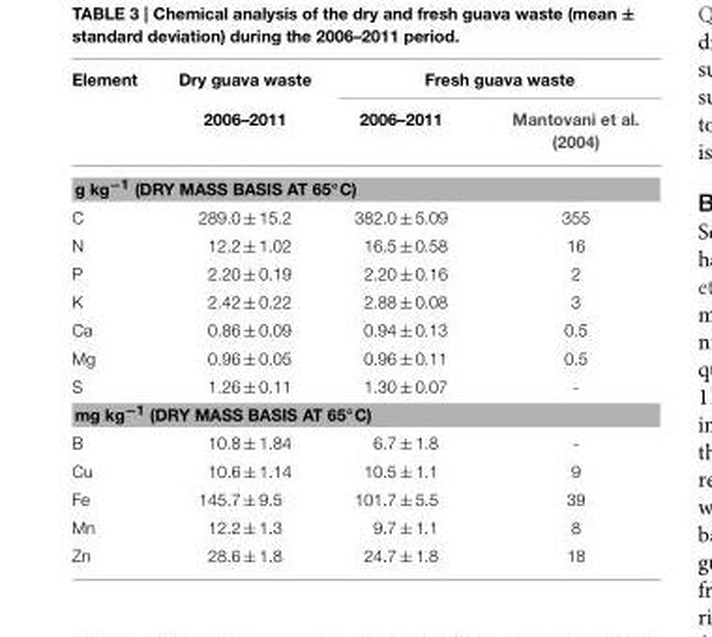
<table><thead><tr><td rowspan="2">Element</td><td rowspan="2">Dry guava waste 2006–2011</td><td colspan="2">Fresh guava waste</td></tr><tr><td>2006–2011</td><td>Mantovani et al. (2004)</td></tr></thead><tbody><tr><td colspan="4">g kg−1 (DRY MASS BASIS AT 65◦C)</td></tr><tr><td>C</td><td>289.0 ± 15.2</td><td>382.0 ± 5.09</td><td>355</td></tr><tr><td>N</td><td>12.2 ± 1.02</td><td>16.5 ± 0.58</td><td>16</td></tr><tr><td>P</td><td>2.20 ± 0.19</td><td>2.20 ± 0.16</td><td>2</td></tr><tr><td>K</td><td>2.42 ± 0.22</td><td>2.88 ± 0.08</td><td>3</td></tr><tr><td>Ca</td><td>0.86 ± 0.09</td><td>0.94 ± 0.13</td><td>0.5</td></tr><tr><td>Mg</td><td>0.96 ± 0.05</td><td>0.96 ± 0.11</td><td>0.5</td></tr><tr><td>S</td><td>1.26 ± 0.11</td><td>1.30 ± 0.07</td><td>-</td></tr><tr><td colspan="4">mg kg−1 (DRY MASS BASIS AT 65◦C)</td></tr><tr><td>B</td><td>10.8 ± 1.84</td><td>6.7 ± 1.8</td><td>-</td></tr><tr><td>Cu</td><td>10.6 ± 1.14</td><td>10.5 ± 1.1</td><td>9</td></tr><tr><td>Fe</td><td>145.7 ± 9.5</td><td>101.7 ± 5.5</td><td>39</td></tr><tr><td>Mn</td><td>12.2 ± 1.3</td><td>9.7 ± 1.1</td><td>8</td></tr><tr><td>Zn</td><td>28.6 ± 1.8</td><td>24.7 ± 1.8</td><td>18</td></tr></tbody></table>